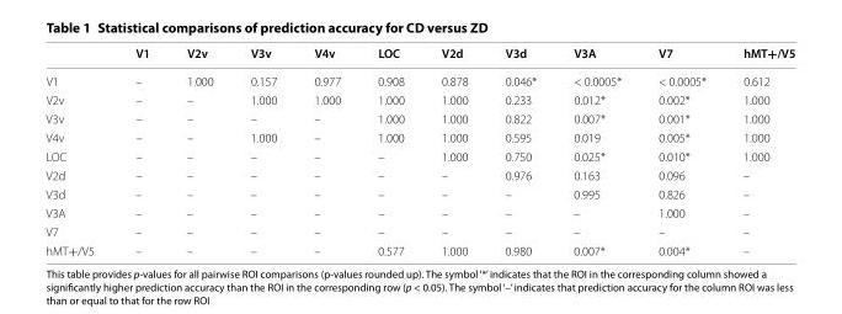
<table><thead><tr><td></td><td>V1</td><td>V2v</td><td>V3v</td><td>V4v</td><td>LOC</td><td>V2d</td><td>V3d</td><td>V3A</td><td>V7</td><td>hMT+/V5</td></tr></thead><tbody><tr><td>V1</td><td>–</td><td>1.000</td><td>0.157</td><td>0.977</td><td>0.908</td><td>0.878</td><td>0.046*</td><td>&lt; 0.0005*</td><td>&lt; 0.0005*</td><td>0.612</td></tr><tr><td>V2v</td><td>–</td><td>–</td><td>1.000</td><td>1.000</td><td>1.000</td><td>1.000</td><td>0.233</td><td>0.012*</td><td>0.002*</td><td>1.000</td></tr><tr><td>V3v</td><td>–</td><td>–</td><td>–</td><td>–</td><td>1.000</td><td>1.000</td><td>0.822</td><td>0.007*</td><td>0.001*</td><td>1.000</td></tr><tr><td>V4v</td><td>–</td><td>–</td><td>1.000</td><td>–</td><td>1.000</td><td>1.000</td><td>0.595</td><td>0.019</td><td>0.005*</td><td>1.000</td></tr><tr><td>LOC</td><td>–</td><td>–</td><td>–</td><td>–</td><td>–</td><td>1.000</td><td>0.750</td><td>0.025*</td><td>0.010*</td><td>1.000</td></tr><tr><td>V2d</td><td>–</td><td>–</td><td>–</td><td>–</td><td>–</td><td>–</td><td>0.976</td><td>0.163</td><td>0.096</td><td>–</td></tr><tr><td>V3d</td><td>–</td><td>–</td><td>–</td><td>–</td><td>–</td><td>–</td><td>–</td><td>0.995</td><td>0.826</td><td>–</td></tr><tr><td>V3A</td><td>–</td><td>–</td><td>–</td><td>–</td><td>–</td><td>–</td><td>–</td><td>–</td><td>1.000</td><td>–</td></tr><tr><td>V7</td><td>–</td><td>–</td><td>–</td><td>–</td><td>–</td><td>–</td><td>–</td><td>–</td><td>–</td><td>–</td></tr><tr><td>hMT+/V5</td><td>–</td><td>–</td><td>–</td><td>–</td><td>0.577</td><td>1.000</td><td>0.980</td><td>0.007*</td><td>0.004*</td><td>–</td></tr></tbody></table>